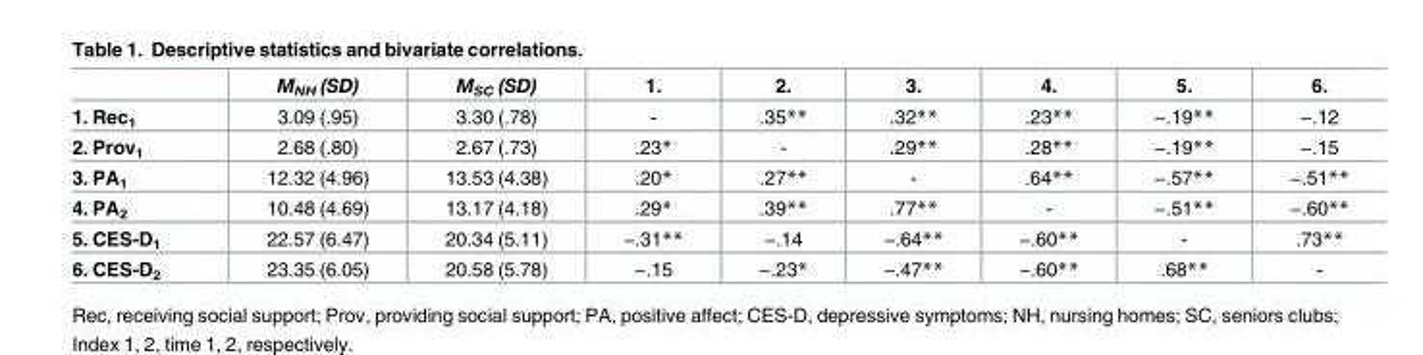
<table><thead><tr><td></td><td>M<sub>NH</sub> (SD)</td><td>M<sub>SC</sub> (SD)</td><td>1.</td><td>2.</td><td>3.</td><td>4.</td><td>5.</td><td>6.</td></tr></thead><tbody><tr><td>1. Rec<sub>1</sub></td><td>3.09 (.95)</td><td>3.30 (.78)</td><td>-</td><td>.35**</td><td>.32**</td><td>.23**</td><td>−.19**</td><td>−.12</td></tr><tr><td>2. Prov<sub>1</sub></td><td>2.68 (.80)</td><td>2.67 (.73)</td><td>.23*</td><td>-</td><td>.29**</td><td>.28**</td><td>−.19**</td><td>−.15</td></tr><tr><td>3. PA<sub>1</sub></td><td>12.32 (4.96)</td><td>13.53 (4.38)</td><td>.20*</td><td>.27**</td><td>-</td><td>.64**</td><td>−.57**</td><td>−.51**</td></tr><tr><td>4. PA<sub>2</sub></td><td>10.48 (4.69)</td><td>13.17 (4.18)</td><td>.29*</td><td>.39**</td><td>.77**</td><td>-</td><td>−.51**</td><td>−.60**</td></tr><tr><td>5. CES-D<sub>1</sub></td><td>22.57 (6.47)</td><td>20.34 (5.11)</td><td>−.31**</td><td>−.14</td><td>−.64**</td><td>−.60**</td><td>-</td><td>.73**</td></tr><tr><td>6. CES-D<sub>2</sub></td><td>23.35 (6.05)</td><td>20.58 (5.78)</td><td>−.15</td><td>−.23*</td><td>−.47**</td><td>−.60**</td><td>.68**</td><td>-</td></tr></tbody></table>